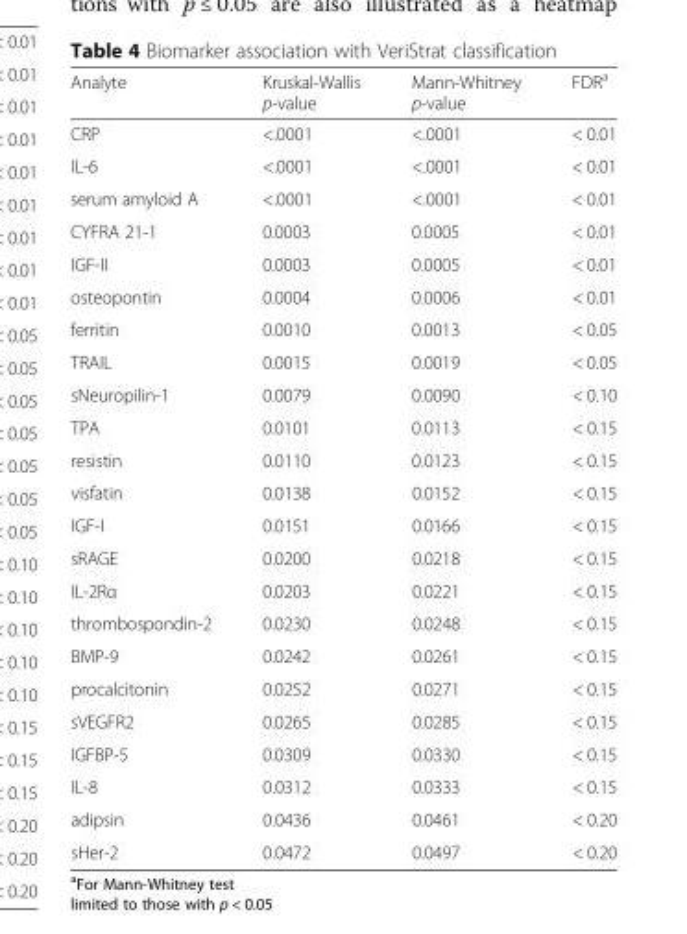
<table><thead><tr><td>Analyte</td><td>Kruskal-Wallis p-value</td><td>Mann-Whitney p-value</td><td>FDR<sup>a</sup></td></tr></thead><tbody><tr><td>CRP</td><td>&lt;.0001</td><td>&lt;.0001</td><td>&lt; 0.01</td></tr><tr><td>IL-6</td><td>&lt;.0001</td><td>&lt;.0001</td><td>&lt; 0.01</td></tr><tr><td>serum amyloid A</td><td>&lt;.0001</td><td>&lt;.0001</td><td>&lt; 0.01</td></tr><tr><td>CYFRA 21-1</td><td>0.0003</td><td>0.0005</td><td>&lt; 0.01</td></tr><tr><td>IGF-II</td><td>0.0003</td><td>0.0005</td><td>&lt; 0.01</td></tr><tr><td>osteopontin</td><td>0.0004</td><td>0.0006</td><td>&lt; 0.01</td></tr><tr><td>ferritin</td><td>0.0010</td><td>0.0013</td><td>&lt; 0.05</td></tr><tr><td>TRAIL</td><td>0.0015</td><td>0.0019</td><td>&lt; 0.05</td></tr><tr><td>sNeuropilin-1</td><td>0.0079</td><td>0.0090</td><td>&lt; 0.10</td></tr><tr><td>TPA</td><td>0.0101</td><td>0.0113</td><td>&lt; 0.15</td></tr><tr><td>resistin</td><td>0.0110</td><td>0.0123</td><td>&lt; 0.15</td></tr><tr><td>visfatin</td><td>0.0138</td><td>0.0152</td><td>&lt; 0.15</td></tr><tr><td>IGF-I</td><td>0.0151</td><td>0.0166</td><td>&lt; 0.15</td></tr><tr><td>sRAGE</td><td>0.0200</td><td>0.0218</td><td>&lt; 0.15</td></tr><tr><td>IL-2Rα</td><td>0.0203</td><td>0.0221</td><td>&lt; 0.15</td></tr><tr><td>thrombospondin-2</td><td>0.0230</td><td>0.0248</td><td>&lt; 0.15</td></tr><tr><td>BMP-9</td><td>0.0242</td><td>0.0261</td><td>&lt; 0.15</td></tr><tr><td>procalcitonin</td><td>0.0252</td><td>0.0271</td><td>&lt; 0.15</td></tr><tr><td>sVEGFR2</td><td>0.0265</td><td>0.0285</td><td>&lt; 0.15</td></tr><tr><td>IGFBP-5</td><td>0.0309</td><td>0.0330</td><td>&lt; 0.15</td></tr><tr><td>IL-8</td><td>0.0312</td><td>0.0333</td><td>&lt; 0.15</td></tr><tr><td>adipsin</td><td>0.0436</td><td>0.0461</td><td>&lt; 0.20</td></tr><tr><td>sHer-2</td><td>0.0472</td><td>0.0497</td><td>&lt; 0.20</td></tr></tbody></table>